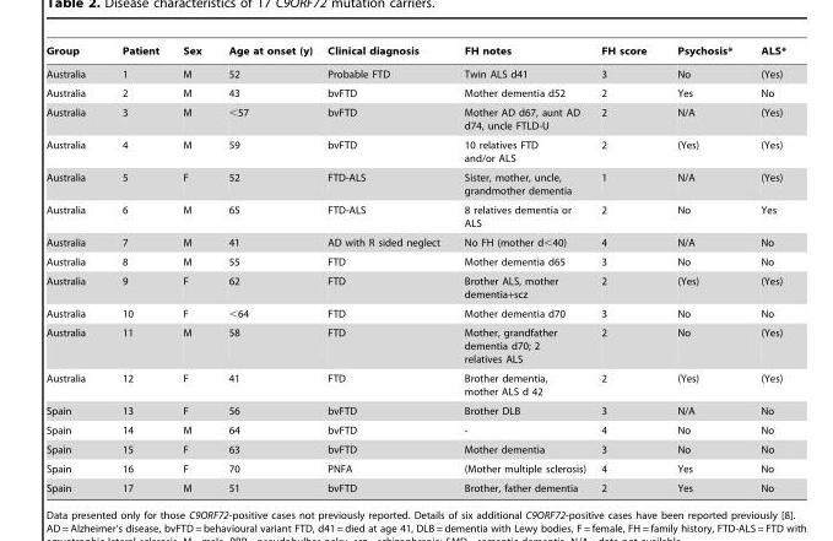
<table><thead><tr><td>Group</td><td>Patient</td><td>Sex</td><td>Age at onset (y)</td><td>Clinical diagnosis</td><td>FH notes</td><td>FH score</td><td>Psychosis*</td><td>ALS*</td></tr></thead><tbody><tr><td>Australia</td><td>1</td><td>M</td><td>52</td><td>Probable FTD</td><td>Twin ALS d41</td><td>3</td><td>No</td><td>(Yes)</td></tr><tr><td>Australia</td><td>2</td><td>M</td><td>43</td><td>bvFTD</td><td>Mother dementia d52</td><td>2</td><td>Yes</td><td>No</td></tr><tr><td>Australia</td><td>3</td><td>M</td><td>&lt;57</td><td>bvFTD</td><td>Mother AD d67, aunt AD d74, uncle FTLD-U</td><td>2</td><td>N/A</td><td>(Yes)</td></tr><tr><td>Australia</td><td>4</td><td>M</td><td>59</td><td>bvFTD</td><td>10 relatives FTD and/or ALS</td><td>2</td><td>(Yes)</td><td>(Yes)</td></tr><tr><td>Australia</td><td>5</td><td>F</td><td>52</td><td>FTD-ALS</td><td>Sister, mother, uncle, grandmother dementia</td><td>1</td><td>N/A</td><td>(Yes)</td></tr><tr><td>Australia</td><td>6</td><td>M</td><td>65</td><td>FTD-ALS</td><td>8 relatives dementia or ALS</td><td>2</td><td>No</td><td>Yes</td></tr><tr><td>Australia</td><td>7</td><td>M</td><td>41</td><td>AD with R sided neglect</td><td>No FH (mother d&lt;40)</td><td>4</td><td>N/A</td><td>No</td></tr><tr><td>Australia</td><td>8</td><td>M</td><td>55</td><td>FTD</td><td>Mother dementia d65</td><td>3</td><td>No</td><td>No</td></tr><tr><td>Australia</td><td>9</td><td>F</td><td>62</td><td>FTD</td><td>Brother ALS, mother dementia+scz</td><td>2</td><td>(Yes)</td><td>(Yes)</td></tr><tr><td>Australia</td><td>10</td><td>F</td><td>&lt;64</td><td>FTD</td><td>Mother dementia d70</td><td>3</td><td>No</td><td>No</td></tr><tr><td>Australia</td><td>11</td><td>M</td><td>58</td><td>FTD</td><td>Mother, grandfather dementia d70; 2 relatives ALS</td><td>2</td><td>No</td><td>(Yes)</td></tr><tr><td>Australia</td><td>12</td><td>F</td><td>41</td><td>FTD</td><td>Brother dementia, mother ALS d 42</td><td>2</td><td>(Yes)</td><td>(Yes)</td></tr><tr><td>Spain</td><td>13</td><td>F</td><td>56</td><td>bvFTD</td><td>Brother DLB</td><td>3</td><td>N/A</td><td>No</td></tr><tr><td>Spain</td><td>14</td><td>M</td><td>64</td><td>bvFTD</td><td>-</td><td>4</td><td>No</td><td>No</td></tr><tr><td>Spain</td><td>15</td><td>F</td><td>63</td><td>bvFTD</td><td>Mother dementia</td><td>3</td><td>No</td><td>No</td></tr><tr><td>Spain</td><td>16</td><td>F</td><td>70</td><td>PNFA</td><td>(Mother multiple sclerosis)</td><td>4</td><td>Yes</td><td>No</td></tr><tr><td>Spain</td><td>17</td><td>M</td><td>51</td><td>bvFTD</td><td>Brother, father dementia</td><td>2</td><td>Yes</td><td>No</td></tr></tbody></table>